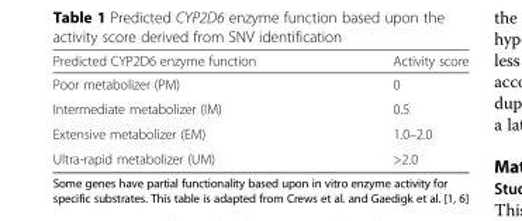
<table><thead><tr><td>Predicted CYP2D6 enzyme function</td><td>Activity score</td></tr></thead><tbody><tr><td>Poor metabolizer (PM)</td><td>0</td></tr><tr><td>Intermediate metabolizer (IM)</td><td>0.5</td></tr><tr><td>Extensive metabolizer (EM)</td><td>1.0–2.0</td></tr><tr><td>Ultra-rapid metabolizer (UM)</td><td>&gt;2.0</td></tr></tbody></table>